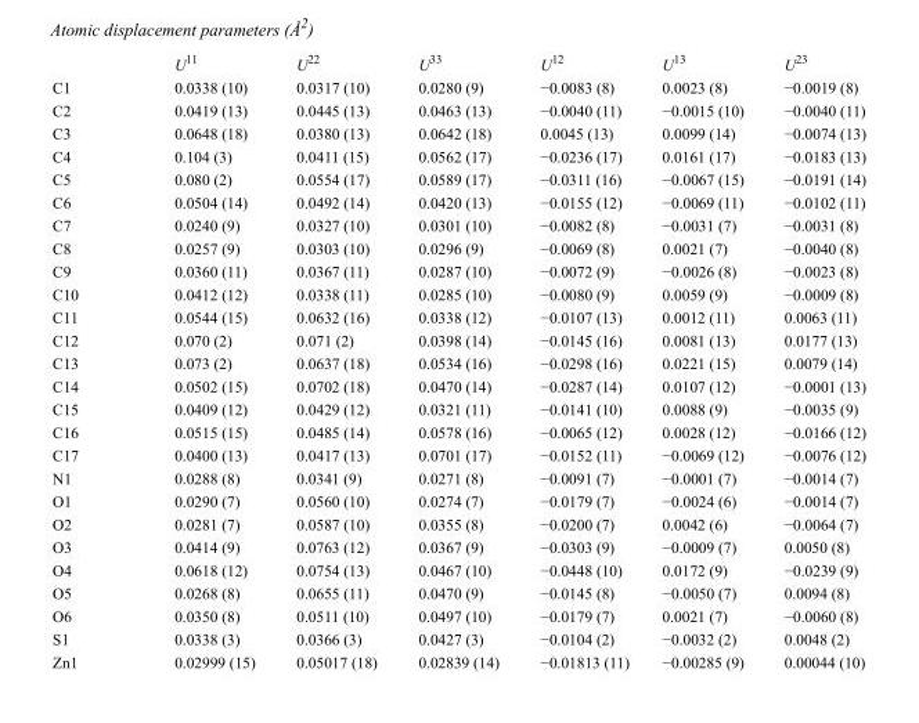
<table><thead><tr><td></td><td>U<sup>11</sup></td><td>U<sup>22</sup></td><td>U<sup>33</sup></td><td>U<sup>12</sup></td><td>U<sup>13</sup></td><td>U<sup>23</sup></td></tr></thead><tbody><tr><td>C1</td><td>0.0338 (10)</td><td>0.0317 (10)</td><td>0.0280 (9)</td><td>−0.0083 (8)</td><td>0.0023 (8)</td><td>−0.0019 (8)</td></tr><tr><td>C2</td><td>0.0419 (13)</td><td>0.0445 (13)</td><td>0.0463 (13)</td><td>−0.0040 (11)</td><td>−0.0015 (10)</td><td>−0.0040 (11)</td></tr><tr><td>C3</td><td>0.0648 (18)</td><td>0.0380 (13)</td><td>0.0642 (18)</td><td>0.0045 (13)</td><td>0.0099 (14)</td><td>−0.0074 (13)</td></tr><tr><td>C4</td><td>0.104 (3)</td><td>0.0411 (15)</td><td>0.0562 (17)</td><td>−0.0236 (17)</td><td>0.0161 (17)</td><td>−0.0183 (13)</td></tr><tr><td>C5</td><td>0.080 (2)</td><td>0.0554 (17)</td><td>0.0589 (17)</td><td>−0.0311 (16)</td><td>−0.0067 (15)</td><td>−0.0191 (14)</td></tr><tr><td>C6</td><td>0.0504 (14)</td><td>0.0492 (14)</td><td>0.0420 (13)</td><td>−0.0155 (12)</td><td>−0.0069 (11)</td><td>−0.0102 (11)</td></tr><tr><td>C7</td><td>0.0240 (9)</td><td>0.0327 (10)</td><td>0.0301 (10)</td><td>−0.0082 (8)</td><td>−0.0031 (7)</td><td>−0.0031 (8)</td></tr><tr><td>C8</td><td>0.0257 (9)</td><td>0.0303 (10)</td><td>0.0296 (9)</td><td>−0.0069 (8)</td><td>0.0021 (7)</td><td>−0.0040 (8)</td></tr><tr><td>C9</td><td>0.0360 (11)</td><td>0.0367 (11)</td><td>0.0287 (10)</td><td>−0.0072 (9)</td><td>−0.0026 (8)</td><td>−0.0023 (8)</td></tr><tr><td>C10</td><td>0.0412 (12)</td><td>0.0338 (11)</td><td>0.0285 (10)</td><td>−0.0080 (9)</td><td>0.0059 (9)</td><td>−0.0009 (8)</td></tr><tr><td>C11</td><td>0.0544 (15)</td><td>0.0632 (16)</td><td>0.0338 (12)</td><td>−0.0107 (13)</td><td>0.0012 (11)</td><td>0.0063 (11)</td></tr><tr><td>C12</td><td>0.070 (2)</td><td>0.071 (2)</td><td>0.0398 (14)</td><td>−0.0145 (16)</td><td>0.0081 (13)</td><td>0.0177 (13)</td></tr><tr><td>C13</td><td>0.073 (2)</td><td>0.0637 (18)</td><td>0.0534 (16)</td><td>−0.0298 (16)</td><td>0.0221 (15)</td><td>0.0079 (14)</td></tr><tr><td>C14</td><td>0.0502 (15)</td><td>0.0702 (18)</td><td>0.0470 (14)</td><td>−0.0287 (14)</td><td>0.0107 (12)</td><td>−0.0001 (13)</td></tr><tr><td>C15</td><td>0.0409 (12)</td><td>0.0429 (12)</td><td>0.0321 (11)</td><td>−0.0141 (10)</td><td>0.0088 (9)</td><td>−0.0035 (9)</td></tr><tr><td>C16</td><td>0.0515 (15)</td><td>0.0485 (14)</td><td>0.0578 (16)</td><td>−0.0065 (12)</td><td>0.0028 (12)</td><td>−0.0166 (12)</td></tr><tr><td>C17</td><td>0.0400 (13)</td><td>0.0417 (13)</td><td>0.0701 (17)</td><td>−0.0152 (11)</td><td>−0.0069 (12)</td><td>−0.0076 (12)</td></tr><tr><td>N1</td><td>0.0288 (8)</td><td>0.0341 (9)</td><td>0.0271 (8)</td><td>−0.0091 (7)</td><td>−0.0001 (7)</td><td>−0.0014 (7)</td></tr><tr><td>O1</td><td>0.0290 (7)</td><td>0.0560 (10)</td><td>0.0274 (7)</td><td>−0.0179 (7)</td><td>−0.0024 (6)</td><td>−0.0014 (7)</td></tr><tr><td>O2</td><td>0.0281 (7)</td><td>0.0587 (10)</td><td>0.0355 (8)</td><td>−0.0200 (7)</td><td>0.0042 (6)</td><td>−0.0064 (7)</td></tr><tr><td>O3</td><td>0.0414 (9)</td><td>0.0763 (12)</td><td>0.0367 (9)</td><td>−0.0303 (9)</td><td>−0.0009 (7)</td><td>0.0050 (8)</td></tr><tr><td>O4</td><td>0.0618 (12)</td><td>0.0754 (13)</td><td>0.0467 (10)</td><td>−0.0448 (10)</td><td>0.0172 (9)</td><td>−0.0239 (9)</td></tr><tr><td>O5</td><td>0.0268 (8)</td><td>0.0655 (11)</td><td>0.0470 (9)</td><td>−0.0145 (8)</td><td>−0.0050 (7)</td><td>0.0094 (8)</td></tr><tr><td>O6</td><td>0.0350 (8)</td><td>0.0511 (10)</td><td>0.0497 (10)</td><td>−0.0179 (7)</td><td>0.0021 (7)</td><td>−0.0060 (8)</td></tr><tr><td>S1</td><td>0.0338 (3)</td><td>0.0366 (3)</td><td>0.0427 (3)</td><td>−0.0104 (2)</td><td>−0.0032 (2)</td><td>0.0048 (2)</td></tr><tr><td>Zn1</td><td>0.02999 (15)</td><td>0.05017 (18)</td><td>0.02839 (14)</td><td>−0.01813 (11)</td><td>−0.00285 (9)</td><td>0.00044 (10)</td></tr></tbody></table>